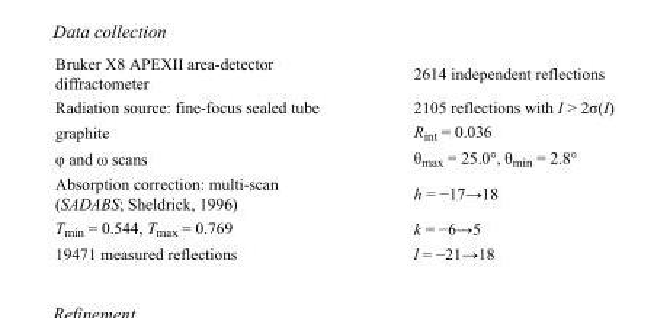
<table><tbody><tr><td>Bruker X8 APEXII area-detector diffractometer</td><td>2614 independent reflections</td></tr><tr><td>Radiation source: fine-focus sealed tube</td><td>2105 reflections with I &gt; 2σ(I)</td></tr><tr><td>graphite</td><td>R<sub>int</sub> = 0.036</td></tr><tr><td>φ and ω scans</td><td>θ<sub>max</sub> = 25.0°, θ<sub>min</sub> = 2.8°</td></tr><tr><td>Absorption correction: multi-scan (SADABS; Sheldrick, 1996)</td><td>h = −17→18</td></tr><tr><td>T<sub>min</sub> = 0.544, T<sub>max</sub> = 0.769</td><td>k = −6→5</td></tr><tr><td>19471 measured reflections</td><td>l = −21→18</td></tr></tbody></table>